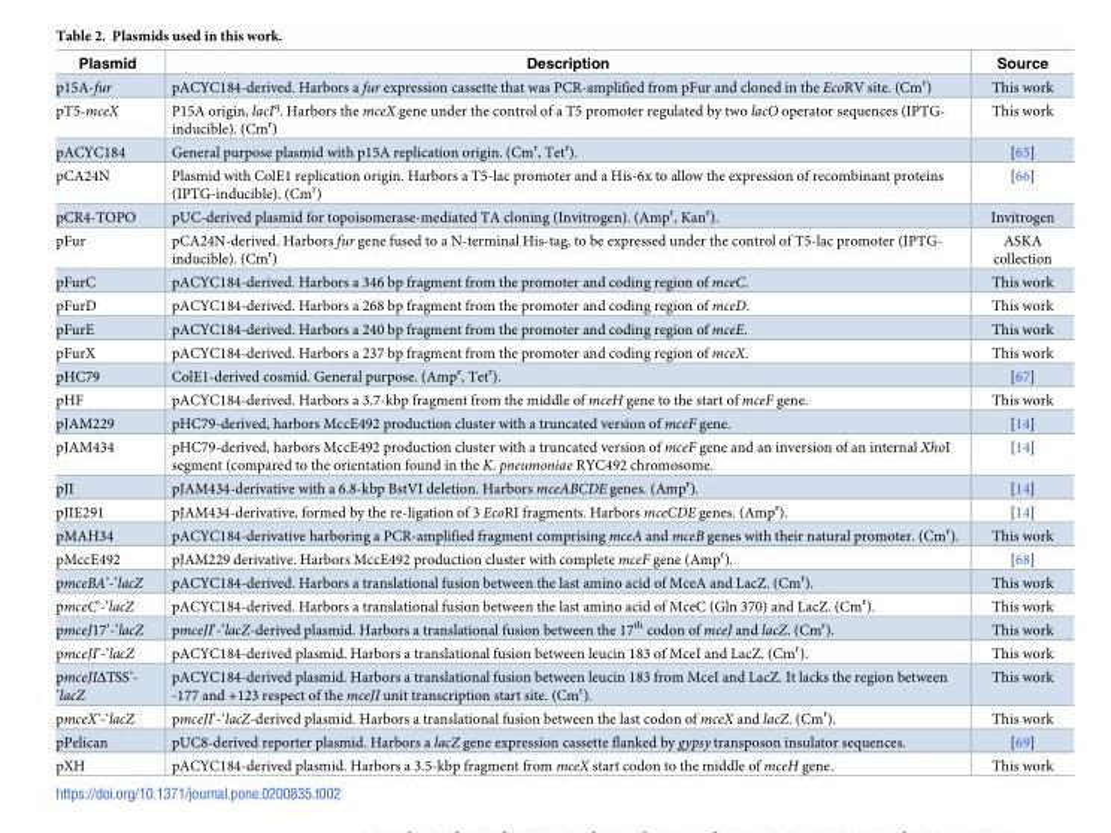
<table><thead><tr><td>Plasmid</td><td>Description</td><td>Source</td></tr></thead><tbody><tr><td>p15A-fur</td><td>pACYC184-derived. Harbors a fur expression cassette that was PCR-amplified from pFur and cloned in the EcoRV site. (Cm<sup>r</sup>)</td><td>This work</td></tr><tr><td>pT5-mceX</td><td>P15A origin, lacI<sup>q</sup>. Harbors the mceX gene under the control of a T5 promoter regulated by two lacO operator sequences (IPTG- inducible). (Cm<sup>r</sup>)</td><td>This work</td></tr><tr><td>pACYC184</td><td>General purpose plasmid with p15A replication origin. (Cm<sup>r</sup>, Tet<sup>r</sup>).</td><td>[65]</td></tr><tr><td>pCA24N</td><td>Plasmid with ColE1 replication origin. Harbors a T5-lac promoter and a His-6x to allow the expression of recombinant proteins (IPTG-inducible). (Cm<sup>r</sup>)</td><td>[66]</td></tr><tr><td>pCR4-TOPO</td><td>pUC-derived plasmid for topoisomerase-mediated TA cloning (Invitrogen). (Amp<sup>r</sup>, Kan<sup>r</sup>).</td><td>Invitrogen</td></tr><tr><td>pFur</td><td>pCA24N-derived. Harbors fur gene fused to a N-terminal His-tag, to be expressed under the control of T5-lac promoter (IPTG- inducible). (Cm<sup>r</sup>)</td><td>ASKA collection</td></tr><tr><td>pFurC</td><td>pACYC184-derived. Harbors a 346 bp fragment from the promoter and coding region of mceC.</td><td>This work</td></tr><tr><td>pFurD</td><td>pACYC184-derived. Harbors a 268 bp fragment from the promoter and coding region of mceD.</td><td>This work</td></tr><tr><td>pFurE</td><td>pACYC184-derived. Harbors a 240 bp fragment from the promoter and coding region of mceE.</td><td>This work</td></tr><tr><td>pFurX</td><td>pACYC184-derived. Harbors a 237 bp fragment from the promoter and coding region of mceX.</td><td>This work</td></tr><tr><td>pHC79</td><td>ColE1-derived cosmid. General purpose. (Amp<sup>r</sup>, Tet<sup>r</sup>).</td><td>[67]</td></tr><tr><td>pHF</td><td>pACYC184-derived. Harbors a 3.7-kbp fragment from the middle of mceH gene to the start of mceF gene.</td><td>This work</td></tr><tr><td>pJAM229</td><td>pHC79-derived, harbors MccE492 production cluster with a truncated version of mceF gene.</td><td>[14]</td></tr><tr><td>pJAM434</td><td>pHC79-derived, harbors MccE492 production cluster with a truncated version of mceF gene and an inversion of an internal XhoI segment (compared to the orientation found in the K. pneumoniae RYC492 chromosome.</td><td>[14]</td></tr><tr><td>pJI</td><td>pJAM434-derivative with a 6.8-kbp BstVI deletion. Harbors mceABCDE genes. (Amp<sup>r</sup>).</td><td>[14]</td></tr><tr><td>pJIE291</td><td>pJAM434-derivative, formed by the re-ligation of 3 EcoRI fragments. Harbors mceCDE genes. (Amp<sup>r</sup>).</td><td>[14]</td></tr><tr><td>pMAH34</td><td>pACYC184-derivative harboring a PCR-amplified fragment comprising mceA and mceB genes with their natural promoter. (Cm<sup>r</sup>).</td><td>This work</td></tr><tr><td>pMccE492</td><td>pJAM229 derivative. Harbors MccE492 production cluster with complete mceF gene (Amp<sup>r</sup>).</td><td>[68]</td></tr><tr><td>pmceBA’-’lacZ</td><td>pACYC184-derived. Harbors a translational fusion between the last amino acid of MceA and LacZ. (Cm<sup>r</sup>).</td><td>This work</td></tr><tr><td>pmceC’-’lacZ</td><td>pACYC184-derived. Harbors a translational fusion between the last amino acid of MceC (Gln 370) and LacZ. (Cm<sup>r</sup>).</td><td>This work</td></tr><tr><td>pmceJ17’-’lacZ</td><td>pmceJI’-’lacZ-derived plasmid. Harbors a translational fusion between the 17<sup>th</sup> codon of mceJ and lacZ. (Cm<sup>r</sup>).</td><td>This work</td></tr><tr><td>pmceJI’-’lacZ</td><td>pACYC184-derived plasmid. Harbors a translational fusion between leucin 183 of MceI and LacZ. (Cm<sup>r</sup>).</td><td>This work</td></tr><tr><td>pmceJIΔTSS’- ’lacZ</td><td>pACYC184-derived plasmid. Harbors a translational fusion between leucin 183 from MceI and LacZ. It lacks the region between -177 and +123 respect of the mceJI unit transcription start site. (Cm<sup>r</sup>).</td><td>This work</td></tr><tr><td>pmceX’-‘lacZ</td><td>pmceJI’-‘lacZ-derived plasmid. Harbors a translational fusion between the last codon of mceX and lacZ. (Cm<sup>r</sup>).</td><td>This work</td></tr><tr><td>pPelican</td><td>pUC8-derived reporter plasmid. Harbors a lacZ gene expression cassette flanked by gypsy transposon insulator sequences.</td><td>[69]</td></tr><tr><td>pXH</td><td>pACYC184-derived plasmid. Harbors a 3.5-kbp fragment from mceX start codon to the middle of mceH gene.</td><td>This work</td></tr></tbody></table>